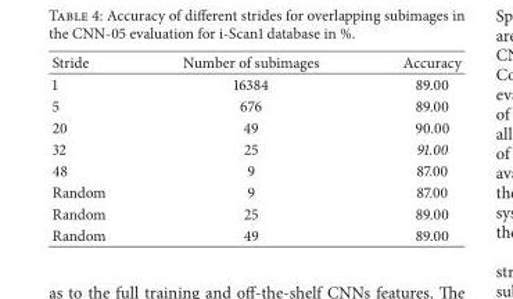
<table><thead><tr><td>Stride</td><td>Number of subimages</td><td>Accuracy</td></tr></thead><tbody><tr><td>1</td><td>16384</td><td>89.00</td></tr><tr><td>5</td><td>676</td><td>89.00</td></tr><tr><td>20</td><td>49</td><td>90.00</td></tr><tr><td>32</td><td>25</td><td>91.00</td></tr><tr><td>48</td><td>9</td><td>87.00</td></tr><tr><td>Random</td><td>9</td><td>87.00</td></tr><tr><td>Random</td><td>25</td><td>89.00</td></tr><tr><td>Random</td><td>49</td><td>89.00</td></tr></tbody></table>